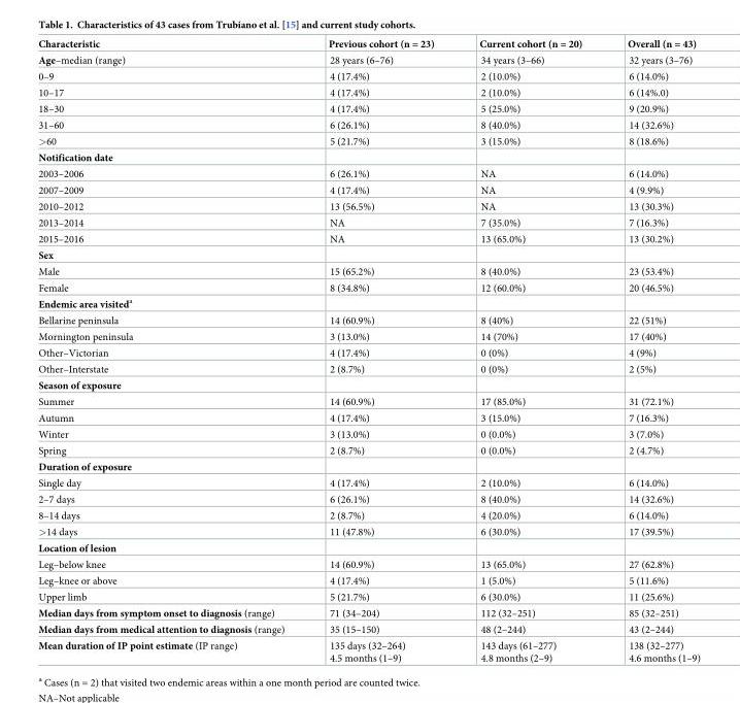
<table><thead><tr><td>Characteristic</td><td>Previous cohort (n = 23)</td><td>Current cohort (n = 20)</td><td>Overall (n = 43)</td></tr></thead><tbody><tr><td>Age–median (range)</td><td>28 years (6–76)</td><td>34 years (3–66)</td><td>32 years (3–76)</td></tr><tr><td>0–9</td><td>4 (17.4%)</td><td>2 (10.0%)</td><td>6 (14.0%)</td></tr><tr><td>10–17</td><td>4 (17.4%)</td><td>2 (10.0%)</td><td>6 (14%.0)</td></tr><tr><td>18–30</td><td>4 (17.4%)</td><td>5 (25.0%)</td><td>9 (20.9%)</td></tr><tr><td>31–60</td><td>6 (26.1%)</td><td>8 (40.0%)</td><td>14 (32.6%)</td></tr><tr><td>&gt;60</td><td>5 (21.7%)</td><td>3 (15.0%)</td><td>8 (18.6%)</td></tr><tr><td colspan="4">Notification date</td></tr><tr><td>2003–2006</td><td>6 (26.1%)</td><td>NA</td><td>6 (14.0%)</td></tr><tr><td>2007–2009</td><td>4 (17.4%)</td><td>NA</td><td>4 (9.9%)</td></tr><tr><td>2010–2012</td><td>13 (56.5%)</td><td>NA</td><td>13 (30.3%)</td></tr><tr><td>2013–2014</td><td>NA</td><td>7 (35.0%)</td><td>7 (16.3%)</td></tr><tr><td>2015–2016</td><td>NA</td><td>13 (65.0%)</td><td>13 (30.2%)</td></tr><tr><td colspan="4">Sex</td></tr><tr><td>Male</td><td>15 (65.2%)</td><td>8 (40.0%)</td><td>23 (53.4%)</td></tr><tr><td>Female</td><td>8 (34.8%)</td><td>12 (60.0%)</td><td>20 (46.5%)</td></tr><tr><td colspan="4">Endemic area visited<sup>a</sup></td></tr><tr><td>Bellarine peninsula</td><td>14 (60.9%)</td><td>8 (40%)</td><td>22 (51%)</td></tr><tr><td>Mornington peninsula</td><td>3 (13.0%)</td><td>14 (70%)</td><td>17 (40%)</td></tr><tr><td>Other–Victorian</td><td>4 (17.4%)</td><td>0 (0%)</td><td>4 (9%)</td></tr><tr><td>Other–Interstate</td><td>2 (8.7%)</td><td>0 (0%)</td><td>2 (5%)</td></tr><tr><td colspan="4">Season of exposure</td></tr><tr><td>Summer</td><td>14 (60.9%)</td><td>17 (85.0%)</td><td>31 (72.1%)</td></tr><tr><td>Autumn</td><td>4 (17.4%)</td><td>3 (15.0%)</td><td>7 (16.3%)</td></tr><tr><td>Winter</td><td>3 (13.0%)</td><td>0 (0.0%)</td><td>3 (7.0%)</td></tr><tr><td>Spring</td><td>2 (8.7%)</td><td>0 (0.0%)</td><td>2 (4.7%)</td></tr><tr><td colspan="4">Duration of exposure</td></tr><tr><td>Single day</td><td>4 (17.4%)</td><td>2 (10.0%)</td><td>6 (14.0%)</td></tr><tr><td>2–7 days</td><td>6 (26.1%)</td><td>8 (40.0%)</td><td>14 (32.6%)</td></tr><tr><td>8–14 days</td><td>2 (8.7%)</td><td>4 (20.0%)</td><td>6 (14.0%)</td></tr><tr><td>&gt;14 days</td><td>11 (47.8%)</td><td>6 (30.0%)</td><td>17 (39.5%)</td></tr><tr><td colspan="4">Location of lesion</td></tr><tr><td>Leg–below knee</td><td>14 (60.9%)</td><td>13 (65.0%)</td><td>27 (62.8%)</td></tr><tr><td>Leg–knee or above</td><td>4 (17.4%)</td><td>1 (5.0%)</td><td>5 (11.6%)</td></tr><tr><td>Upper limb</td><td>5 (21.7%)</td><td>6 (30.0%)</td><td>11 (25.6%)</td></tr><tr><td>Median days from symptom onset to diagnosis (range)</td><td>71 (34–204)</td><td>112 (32–251)</td><td>85 (32–251)</td></tr><tr><td>Median days from medical attention to diagnosis (range)</td><td>35 (15–150)</td><td>48 (2–244)</td><td>43 (2–244)</td></tr><tr><td>Mean duration of IP point estimate (IP range)</td><td>135 days (32–264) 4.5 months (1–9)</td><td>143 days (61–277) 4.8 months (2–9)</td><td>138 (32–277) 4.6 months (1–9)</td></tr></tbody></table>